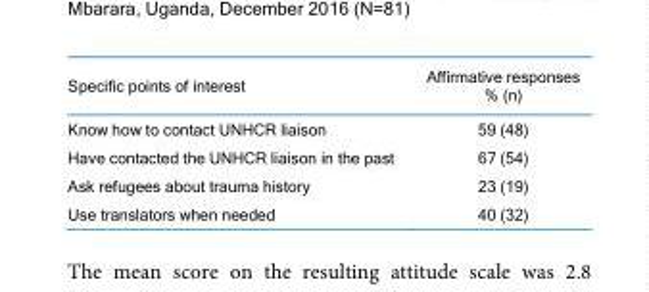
<table><thead><tr><td>Specific points of interest</td><td>Affirmative responses % (n)</td></tr></thead><tbody><tr><td>Know how to contact UNHCR liaison</td><td>59 (48)</td></tr><tr><td>Have contacted the UNHCR liaison in the past</td><td>67 (54)</td></tr><tr><td>Ask refugees about trauma history</td><td>23 (19)</td></tr><tr><td>Use translators when needed</td><td>40 (32)</td></tr></tbody></table>